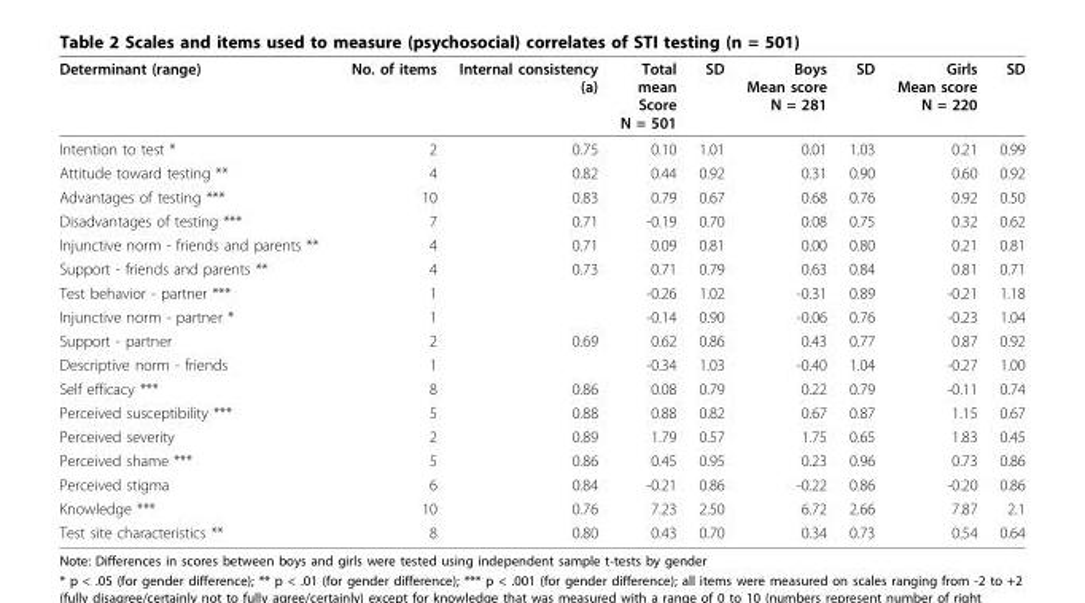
<table><thead><tr><td>Determinant (range)</td><td>No. of items</td><td>Internal consistency (a)</td><td>Total mean Score N = 501</td><td>SD</td><td>Boys Mean score N = 281</td><td>SD</td><td>Girls Mean score N = 220</td><td>SD</td></tr></thead><tbody><tr><td>Intention to test *</td><td>2</td><td>0.75</td><td>0.10</td><td>1.01</td><td>0.01</td><td>1.03</td><td>0.21</td><td>0.99</td></tr><tr><td>Attitude toward testing **</td><td>4</td><td>0.82</td><td>0.44</td><td>0.92</td><td>0.31</td><td>0.90</td><td>0.60</td><td>0.92</td></tr><tr><td>Advantages of testing ***</td><td>10</td><td>0.83</td><td>0.79</td><td>0.67</td><td>0.68</td><td>0.76</td><td>0.92</td><td>0.50</td></tr><tr><td>Disadvantages of testing ***</td><td>7</td><td>0.71</td><td>-0.19</td><td>0.70</td><td>0.08</td><td>0.75</td><td>0.32</td><td>0.62</td></tr><tr><td>Injunctive norm - friends and parents **</td><td>4</td><td>0.71</td><td>0.09</td><td>0.81</td><td>0.00</td><td>0.80</td><td>0.21</td><td>0.81</td></tr><tr><td>Support - friends and parents **</td><td>4</td><td>0.73</td><td>0.71</td><td>0.79</td><td>0.63</td><td>0.84</td><td>0.81</td><td>0.71</td></tr><tr><td>Test behavior - partner ***</td><td>1</td><td></td><td>-0.26</td><td>1.02</td><td>-0.31</td><td>0.89</td><td>-0.21</td><td>1.18</td></tr><tr><td>Injunctive norm - partner *</td><td>1</td><td></td><td>-0.14</td><td>0.90</td><td>-0.06</td><td>0.76</td><td>-0.23</td><td>1.04</td></tr><tr><td>Support - partner</td><td>2</td><td>0.69</td><td>0.62</td><td>0.86</td><td>0.43</td><td>0.77</td><td>0.87</td><td>0.92</td></tr><tr><td>Descriptive norm - friends</td><td>1</td><td></td><td>-0.34</td><td>1.03</td><td>-0.40</td><td>1.04</td><td>-0.27</td><td>1.00</td></tr><tr><td>Self efficacy ***</td><td>8</td><td>0.86</td><td>0.08</td><td>0.79</td><td>0.22</td><td>0.79</td><td>-0.11</td><td>0.74</td></tr><tr><td>Perceived susceptibility ***</td><td>5</td><td>0.88</td><td>0.88</td><td>0.82</td><td>0.67</td><td>0.87</td><td>1.15</td><td>0.67</td></tr><tr><td>Perceived severity</td><td>2</td><td>0.89</td><td>1.79</td><td>0.57</td><td>1.75</td><td>0.65</td><td>1.83</td><td>0.45</td></tr><tr><td>Perceived shame ***</td><td>5</td><td>0.86</td><td>0.45</td><td>0.95</td><td>0.23</td><td>0.96</td><td>0.73</td><td>0.86</td></tr><tr><td>Perceived stigma</td><td>6</td><td>0.84</td><td>-0.21</td><td>0.86</td><td>-0.22</td><td>0.86</td><td>-0.20</td><td>0.86</td></tr><tr><td>Knowledge ***</td><td>10</td><td>0.76</td><td>7.23</td><td>2.50</td><td>6.72</td><td>2.66</td><td>7.87</td><td>2.1</td></tr><tr><td>Test site characteristics **</td><td>8</td><td>0.80</td><td>0.43</td><td>0.70</td><td>0.34</td><td>0.73</td><td>0.54</td><td>0.64</td></tr></tbody></table>